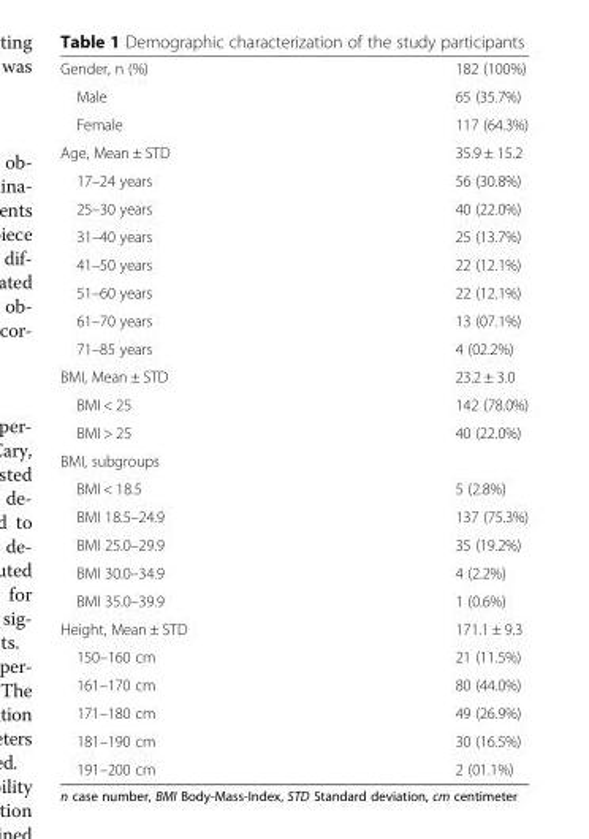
<table><tbody><tr><td>Gender, n (%)</td><td>182 (100%)</td></tr><tr><td>Male</td><td>65 (35.7%)</td></tr><tr><td>Female</td><td>117 (64.3%)</td></tr><tr><td>Age, Mean ± STD</td><td>35.9 ± 15.2</td></tr><tr><td>17–24 years</td><td>56 (30.8%)</td></tr><tr><td>25–30 years</td><td>40 (22.0%)</td></tr><tr><td>31–40 years</td><td>25 (13.7%)</td></tr><tr><td>41–50 years</td><td>22 (12.1%)</td></tr><tr><td>51–60 years</td><td>22 (12.1%)</td></tr><tr><td>61–70 years</td><td>13 (07.1%)</td></tr><tr><td>71–85 years</td><td>4 (02.2%)</td></tr><tr><td>BMI, Mean ± STD</td><td>23.2 ± 3.0</td></tr><tr><td>BMI &lt; 25</td><td>142 (78.0%)</td></tr><tr><td>BMI &gt; 25</td><td>40 (22.0%)</td></tr><tr><td colspan="2">BMI, subgroups</td></tr><tr><td>BMI &lt; 18.5</td><td>5 (2.8%)</td></tr><tr><td>BMI 18.5–24.9</td><td>137 (75.3%)</td></tr><tr><td>BMI 25.0–29.9</td><td>35 (19.2%)</td></tr><tr><td>BMI 30.0–34.9</td><td>4 (2.2%)</td></tr><tr><td>BMI 35.0–39.9</td><td>1 (0.6%)</td></tr><tr><td>Height, Mean ± STD</td><td>171.1 ± 9.3</td></tr><tr><td>150–160 cm</td><td>21 (11.5%)</td></tr><tr><td>161–170 cm</td><td>80 (44.0%)</td></tr><tr><td>171–180 cm</td><td>49 (26.9%)</td></tr><tr><td>181–190 cm</td><td>30 (16.5%)</td></tr><tr><td>191–200 cm</td><td>2 (01.1%)</td></tr></tbody></table>